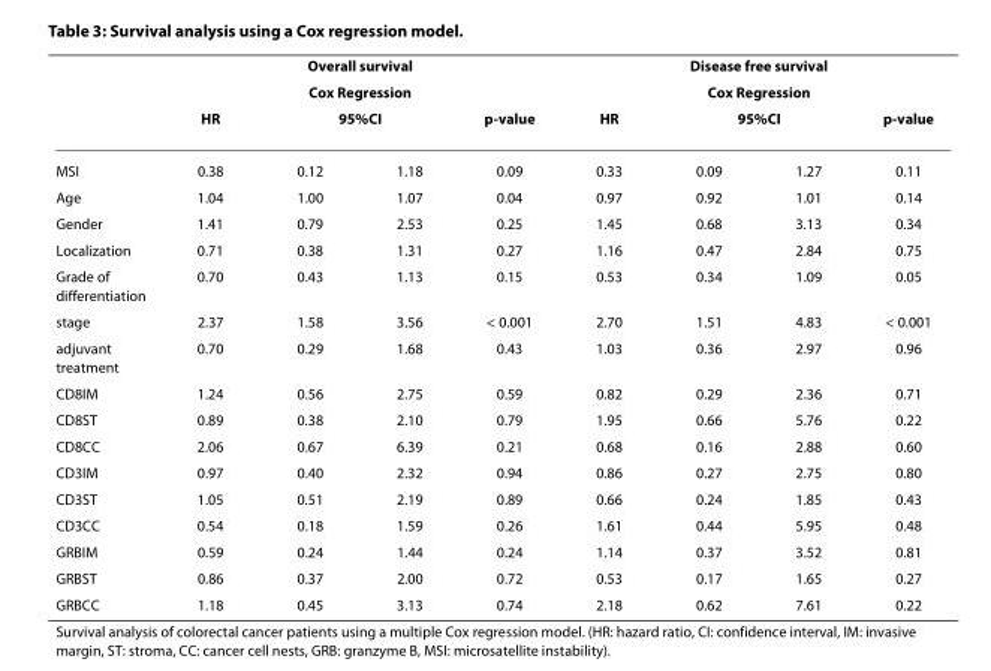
<table><thead><tr><td rowspan="4">MSI</td><td rowspan="2" colspan="4">Overall survival Cox Regression</td><td rowspan="2" colspan="4">Disease free survival Cox Regression</td></tr><tr></tr><tr><td rowspan="2">HR 0.38</td><td colspan="2">95%CI</td><td rowspan="2">p-value 0.09</td><td rowspan="2">HR 0.33</td><td colspan="2">95%CI</td><td rowspan="2">p-value 0.11</td></tr><tr><td>0.12</td><td>1.18</td><td>0.09</td><td>1.27</td></tr></thead><tbody><tr><td>Age</td><td>1.04</td><td>1.00</td><td>1.07</td><td>0.04</td><td>0.97</td><td>0.92</td><td>1.01</td><td>0.14</td></tr><tr><td>Gender</td><td>1.41</td><td>0.79</td><td>2.53</td><td>0.25</td><td>1.45</td><td>0.68</td><td>3.13</td><td>0.34</td></tr><tr><td>Localization</td><td>0.71</td><td>0.38</td><td>1.31</td><td>0.27</td><td>1.16</td><td>0.47</td><td>2.84</td><td>0.75</td></tr><tr><td>Grade of differentiation</td><td>0.70</td><td>0.43</td><td>1.13</td><td>0.15</td><td>0.53</td><td>0.34</td><td>1.09</td><td>0.05</td></tr><tr><td>stage</td><td>2.37</td><td>1.58</td><td>3.56</td><td>&lt; 0.001</td><td>2.70</td><td>1.51</td><td>4.83</td><td>&lt; 0.001</td></tr><tr><td>adjuvant treatment</td><td>0.70</td><td>0.29</td><td>1.68</td><td>0.43</td><td>1.03</td><td>0.36</td><td>2.97</td><td>0.96</td></tr><tr><td>CD8IM</td><td>1.24</td><td>0.56</td><td>2.75</td><td>0.59</td><td>0.82</td><td>0.29</td><td>2.36</td><td>0.71</td></tr><tr><td>CD8ST</td><td>0.89</td><td>0.38</td><td>2.10</td><td>0.79</td><td>1.95</td><td>0.66</td><td>5.76</td><td>0.22</td></tr><tr><td>CD8CC</td><td>2.06</td><td>0.67</td><td>6.39</td><td>0.21</td><td>0.68</td><td>0.16</td><td>2.88</td><td>0.60</td></tr><tr><td>CD3IM</td><td>0.97</td><td>0.40</td><td>2.32</td><td>0.94</td><td>0.86</td><td>0.27</td><td>2.75</td><td>0.80</td></tr><tr><td>CD3ST</td><td>1.05</td><td>0.51</td><td>2.19</td><td>0.89</td><td>0.66</td><td>0.24</td><td>1.85</td><td>0.43</td></tr><tr><td>CD3CC</td><td>0.54</td><td>0.18</td><td>1.59</td><td>0.26</td><td>1.61</td><td>0.44</td><td>5.95</td><td>0.48</td></tr><tr><td>GRBIM</td><td>0.59</td><td>0.24</td><td>1.44</td><td>0.24</td><td>1.14</td><td>0.37</td><td>3.52</td><td>0.81</td></tr><tr><td>GRBST</td><td>0.86</td><td>0.37</td><td>2.00</td><td>0.72</td><td>0.53</td><td>0.17</td><td>1.65</td><td>0.27</td></tr><tr><td>GRBCC</td><td>1.18</td><td>0.45</td><td>3.13</td><td>0.74</td><td>2.18</td><td>0.62</td><td>7.61</td><td>0.22</td></tr></tbody></table>